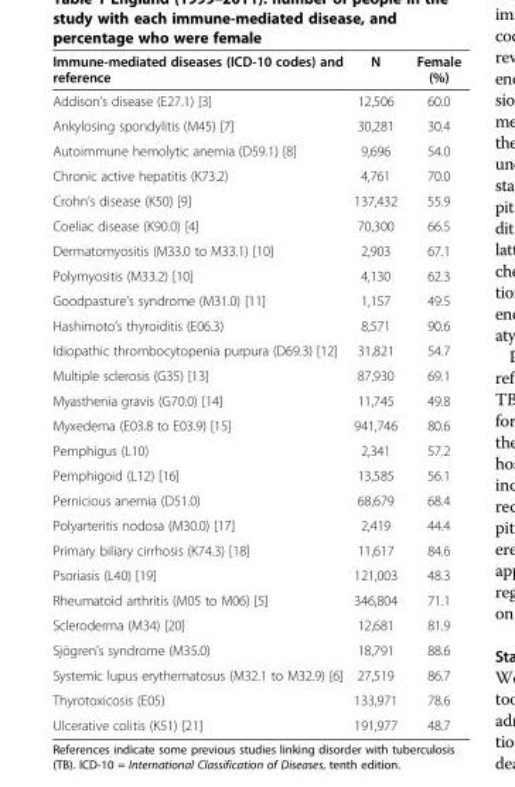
<table><thead><tr><td>Immune-mediated diseases (ICD-10 codes) and reference</td><td>N</td><td>Female (%)</td></tr></thead><tbody><tr><td>Addison’s disease (E27.1) [3]</td><td>12,506</td><td>60.0</td></tr><tr><td>Ankylosing spondylitis (M45) [7]</td><td>30,281</td><td>30.4</td></tr><tr><td>Autoimmune hemolytic anemia (D59.1) [8]</td><td>9,696</td><td>54.0</td></tr><tr><td>Chronic active hepatitis (K73.2)</td><td>4,761</td><td>70.0</td></tr><tr><td>Crohn’s disease (K50) [9]</td><td>137,432</td><td>55.9</td></tr><tr><td>Coeliac disease (K90.0) [4]</td><td>70,300</td><td>66.5</td></tr><tr><td>Dermatomyositis (M33.0 to M33.1) [10]</td><td>2,903</td><td>67.1</td></tr><tr><td>Polymyositis (M33.2) [10]</td><td>4,130</td><td>62.3</td></tr><tr><td>Goodpasture’s syndrome (M31.0) [11]</td><td>1,157</td><td>49.5</td></tr><tr><td>Hashimoto’s thyroiditis (E06.3)</td><td>8,571</td><td>90.6</td></tr><tr><td>Idiopathic thrombocytopenia purpura (D69.3) [12]</td><td>31,821</td><td>54.7</td></tr><tr><td>Multiple sclerosis (G35) [13]</td><td>87,930</td><td>69.1</td></tr><tr><td>Myasthenia gravis (G70.0) [14]</td><td>11,745</td><td>49.8</td></tr><tr><td>Myxedema (E03.8 to E03.9) [15]</td><td>941,746</td><td>80.6</td></tr><tr><td>Pemphigus (L10)</td><td>2,341</td><td>57.2</td></tr><tr><td>Pemphigoid (L12) [16]</td><td>13,585</td><td>56.1</td></tr><tr><td>Pernicious anemia (D51.0)</td><td>68,679</td><td>68.4</td></tr><tr><td>Polyarteritis nodosa (M30.0) [17]</td><td>2,419</td><td>44.4</td></tr><tr><td>Primary biliary cirrhosis (K74.3) [18]</td><td>11,617</td><td>84.6</td></tr><tr><td>Psoriasis (L40) [19]</td><td>121,003</td><td>48.3</td></tr><tr><td>Rheumatoid arthritis (M05 to M06) [5]</td><td>346,804</td><td>71.1</td></tr><tr><td>Scleroderma (M34) [20]</td><td>12,681</td><td>81.9</td></tr><tr><td>Sjögren’s syndrome (M35.0)</td><td>18,791</td><td>88.6</td></tr><tr><td>Systemic lupus erythematosus (M32.1 to M32.9) [6]</td><td>27,519</td><td>86.7</td></tr><tr><td>Thyrotoxicosis (E05)</td><td>133,971</td><td>78.6</td></tr><tr><td>Ulcerative colitis (K51) [21]</td><td>191,977</td><td>48.7</td></tr></tbody></table>